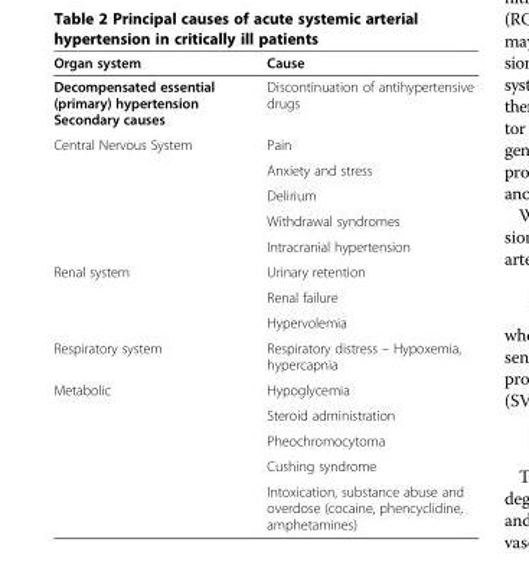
<table><thead><tr><td>Organ system</td><td>Cause</td></tr></thead><tbody><tr><td>Decompensated essential (primary) hypertension Secondary causes</td><td>Discontinuation of antihypertensive drugs</td></tr><tr><td rowspan="5">Central Nervous System</td><td>Pain</td></tr><tr><td>Anxiety and stress</td></tr><tr><td>Delirium</td></tr><tr><td>Withdrawal syndromes</td></tr><tr><td>Intracranial hypertension</td></tr><tr><td rowspan="3">Renal system</td><td>Urinary retention</td></tr><tr><td>Renal failure</td></tr><tr><td>Hypervolemia</td></tr><tr><td>Respiratory system</td><td>Respiratory distress – Hypoxemia, hypercapnia</td></tr><tr><td rowspan="5">Metabolic</td><td>Hypoglycemia</td></tr><tr><td>Steroid administration</td></tr><tr><td>Pheochromocytoma</td></tr><tr><td>Cushing syndrome</td></tr><tr><td>Intoxication, substance abuse and overdose (cocaine, phencyclidine, amphetamines)</td></tr></tbody></table>